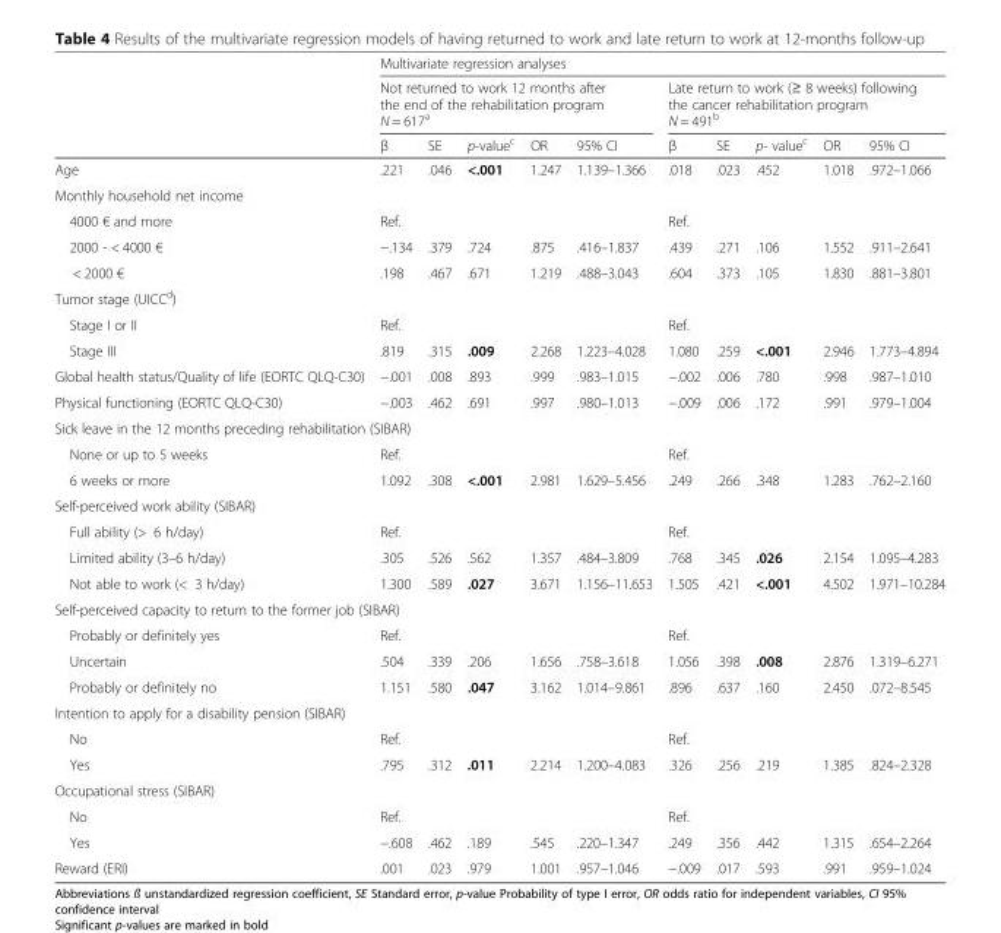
<table><thead><tr><td rowspan="3"></td><td colspan="10">Multivariate regression analyses</td></tr><tr><td colspan="5">Not returned to work 12 months after the end of the rehabilitation program N = 617<sup>a</sup></td><td colspan="5">Late return to work (≥ 8 weeks) following the cancer rehabilitation program N = 491<sup>b</sup></td></tr><tr><td>β</td><td>SE</td><td>p-value<sup>c</sup></td><td>OR</td><td>95% CI</td><td>β</td><td>SE</td><td>p- value<sup>c</sup></td><td>OR</td><td>95% CI</td></tr></thead><tbody><tr><td>Age</td><td>.221</td><td>.046</td><td>&lt;.001</td><td>1.247</td><td>1.139–1.366</td><td>.018</td><td>.023</td><td>.452</td><td>1.018</td><td>.972–1.066</td></tr><tr><td colspan="11">Monthly household net income</td></tr><tr><td>4000 € and more</td><td>Ref.</td><td></td><td></td><td></td><td></td><td>Ref.</td><td></td><td></td><td></td><td></td></tr><tr><td>2000 - &lt; 4000 €</td><td>−.134</td><td>.379</td><td>.724</td><td>.875</td><td>.416–1.837</td><td>.439</td><td>.271</td><td>.106</td><td>1.552</td><td>.911–2.641</td></tr><tr><td>&lt; 2000 €</td><td>.198</td><td>.467</td><td>.671</td><td>1.219</td><td>.488–3.043</td><td>.604</td><td>.373</td><td>.105</td><td>1.830</td><td>.881–3.801</td></tr><tr><td colspan="11">Tumor stage (UICC<sup>d</sup>)</td></tr><tr><td>Stage I or II</td><td>Ref.</td><td></td><td></td><td></td><td></td><td>Ref.</td><td></td><td></td><td></td><td></td></tr><tr><td>Stage III</td><td>.819</td><td>.315</td><td>.009</td><td>2.268</td><td>1.223–4.028</td><td>1.080</td><td>.259</td><td>&lt;.001</td><td>2.946</td><td>1.773–4.894</td></tr><tr><td>Global health status/Quality of life (EORTC QLQ-C30)</td><td>−.001</td><td>.008</td><td>.893</td><td>.999</td><td>.983–1.015</td><td>−.002</td><td>.006</td><td>.780</td><td>.998</td><td>.987–1.010</td></tr><tr><td>Physical functioning (EORTC QLQ-C30)</td><td>−.003</td><td>.462</td><td>.691</td><td>.997</td><td>.980–1.013</td><td>−.009</td><td>.006</td><td>.172</td><td>.991</td><td>.979–1.004</td></tr><tr><td colspan="11">Sick leave in the 12 months preceding rehabilitation (SIBAR)</td></tr><tr><td>None or up to 5 weeks</td><td>Ref.</td><td></td><td></td><td></td><td></td><td>Ref.</td><td></td><td></td><td></td><td></td></tr><tr><td>6 weeks or more</td><td>1.092</td><td>.308</td><td>&lt;.001</td><td>2.981</td><td>1.629–5.456</td><td>.249</td><td>.266</td><td>.348</td><td>1.283</td><td>.762–2.160</td></tr><tr><td colspan="11">Self-perceived work ability (SIBAR)</td></tr><tr><td>Full ability (&gt; 6 h/day)</td><td>Ref.</td><td></td><td></td><td></td><td></td><td>Ref.</td><td></td><td></td><td></td><td></td></tr><tr><td>Limited ability (3–6 h/day)</td><td>.305</td><td>.526</td><td>.562</td><td>1.357</td><td>.484–3.809</td><td>.768</td><td>.345</td><td>.026</td><td>2.154</td><td>1.095–4.283</td></tr><tr><td>Not able to work (&lt; 3 h/day)</td><td>1.300</td><td>.589</td><td>.027</td><td>3.671</td><td>1.156–11.653</td><td>1.505</td><td>.421</td><td>&lt;.001</td><td>4.502</td><td>1.971–10.284</td></tr><tr><td colspan="11">Self-perceived capacity to return to the former job (SIBAR)</td></tr><tr><td>Probably or definitely yes</td><td>Ref.</td><td></td><td></td><td></td><td></td><td>Ref.</td><td></td><td></td><td></td><td></td></tr><tr><td>Uncertain</td><td>.504</td><td>.339</td><td>.206</td><td>1.656</td><td>.758–3.618</td><td>1.056</td><td>.398</td><td>.008</td><td>2.876</td><td>1.319–6.271</td></tr><tr><td>Probably or definitely no</td><td>1.151</td><td>.580</td><td>.047</td><td>3.162</td><td>1.014–9.861</td><td>.896</td><td>.637</td><td>.160</td><td>2.450</td><td>.072–8.545</td></tr><tr><td colspan="11">Intention to apply for a disability pension (SIBAR)</td></tr><tr><td>No</td><td>Ref.</td><td></td><td></td><td></td><td></td><td>Ref.</td><td></td><td></td><td></td><td></td></tr><tr><td>Yes</td><td>.795</td><td>.312</td><td>.011</td><td>2.214</td><td>1.200–4.083</td><td>.326</td><td>.256</td><td>.219</td><td>1.385</td><td>.824–2.328</td></tr><tr><td colspan="11">Occupational stress (SIBAR)</td></tr><tr><td>No</td><td>Ref.</td><td></td><td></td><td></td><td></td><td>Ref.</td><td></td><td></td><td></td><td></td></tr><tr><td>Yes</td><td>−.608</td><td>.462</td><td>.189</td><td>.545</td><td>.220–1.347</td><td>.249</td><td>.356</td><td>.442</td><td>1.315</td><td>.654–2.264</td></tr><tr><td>Reward (ERI)</td><td>.001</td><td>.023</td><td>.979</td><td>1.001</td><td>.957–1.046</td><td>−.009</td><td>.017</td><td>.593</td><td>.991</td><td>.959–1.024</td></tr></tbody></table>